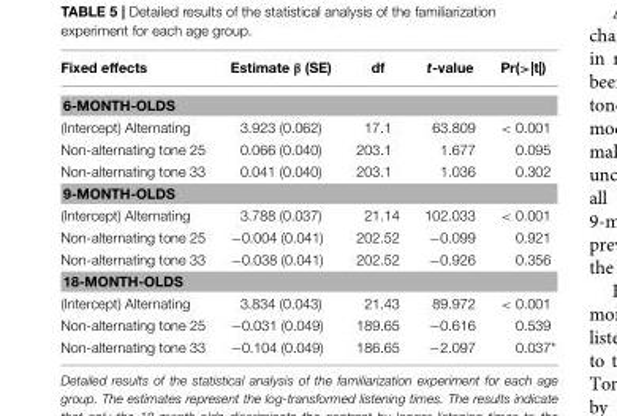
<table><thead><tr><td>Fixed effects</td><td>Estimate β (SE)</td><td>df</td><td>t-value</td><td>Pr(&gt;|t|)</td></tr></thead><tbody><tr><td colspan="5">6-MONTH-OLDS</td></tr><tr><td>(Intercept) Alternating</td><td>3.923 (0.062)</td><td>17.1</td><td>63.809</td><td>&lt; 0.001</td></tr><tr><td>Non-alternating tone 25</td><td>0.066 (0.040)</td><td>203.1</td><td>1.677</td><td>0.095</td></tr><tr><td>Non-alternating tone 33</td><td>0.041 (0.040)</td><td>203.1</td><td>1.036</td><td>0.302</td></tr><tr><td colspan="5">9-MONTH-OLDS</td></tr><tr><td>(Intercept) Alternating</td><td>3.788 (0.037)</td><td>21.14</td><td>102.033</td><td>&lt; 0.001</td></tr><tr><td>Non-alternating tone 25</td><td>−0.004 (0.041)</td><td>202.52</td><td>−0.099</td><td>0.921</td></tr><tr><td>Non-alternating tone 33</td><td>−0.038 (0.041)</td><td>202.52</td><td>−0.926</td><td>0.356</td></tr><tr><td colspan="5">18-MONTH-OLDS</td></tr><tr><td>(Intercept) Alternating</td><td>3.834 (0.043)</td><td>21.43</td><td>89.972</td><td>&lt; 0.001</td></tr><tr><td>Non-alternating tone 25</td><td>−0.031 (0.049)</td><td>189.65</td><td>−0.616</td><td>0.539</td></tr><tr><td>Non-alternating tone 33</td><td>−0.104 (0.049)</td><td>186.65</td><td>−2.097</td><td>0.037*</td></tr></tbody></table>